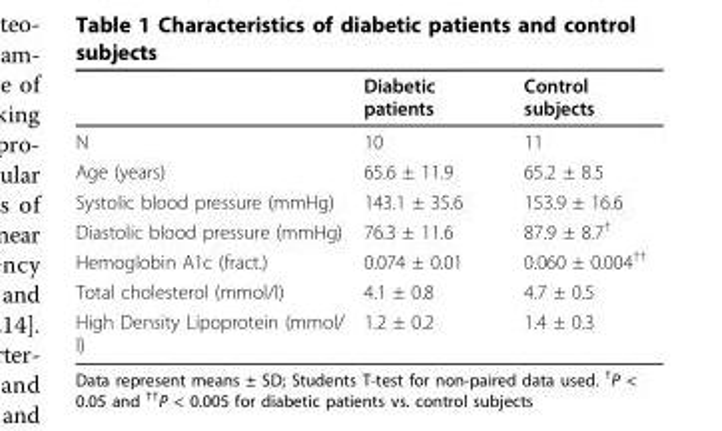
<table><thead><tr><td></td><td>Diabetic patients</td><td>Control subjects</td></tr></thead><tbody><tr><td>N</td><td>10</td><td>11</td></tr><tr><td>Age (years)</td><td>65.6 ± 11.9</td><td>65.2 ± 8.5</td></tr><tr><td>Systolic blood pressure (mmHg)</td><td>143.1 ± 35.6</td><td>153.9 ± 16.6</td></tr><tr><td>Diastolic blood pressure (mmHg)</td><td>76.3 ± 11.6</td><td>87.9 ± 8.7<sup>†</sup></td></tr><tr><td>Hemoglobin A1c (fract.)</td><td>0.074 ± 0.01</td><td>0.060 ± 0.004<sup>††</sup></td></tr><tr><td>Total cholesterol (mmol/l)</td><td>4.1 ± 0.8</td><td>4.7 ± 0.5</td></tr><tr><td>High Density Lipoprotein (mmol/ l)</td><td>1.2 ± 0.2</td><td>1.4 ± 0.3</td></tr></tbody></table>